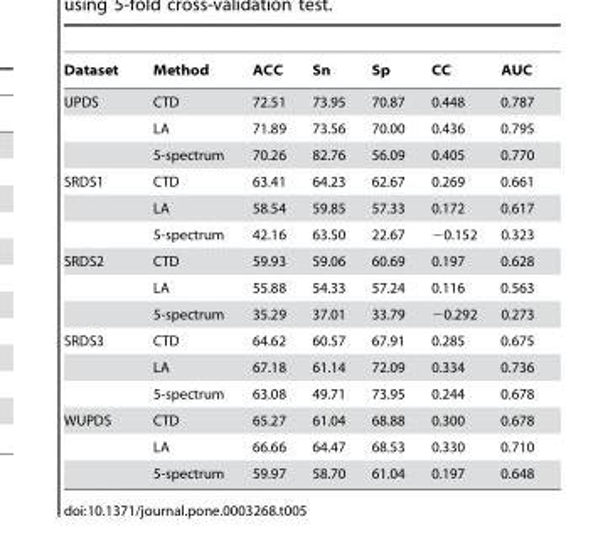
<table><thead><tr><td>Dataset</td><td>Method</td><td>ACC</td><td>Sn</td><td>Sp</td><td>CC</td><td>AUC</td></tr></thead><tbody><tr><td rowspan="3">UPDS</td><td>CTD</td><td>72.51</td><td>73.95</td><td>70.87</td><td>0.448</td><td>0.787</td></tr><tr><td>LA</td><td>71.89</td><td>73.56</td><td>70.00</td><td>0.436</td><td>0.795</td></tr><tr><td>5-spectrum</td><td>70.26</td><td>82.76</td><td>56.09</td><td>0.405</td><td>0.770</td></tr><tr><td rowspan="3">SRDS1</td><td>CTD</td><td>63.41</td><td>64.23</td><td>62.67</td><td>0.269</td><td>0.661</td></tr><tr><td>LA</td><td>58.54</td><td>59.85</td><td>57.33</td><td>0.172</td><td>0.617</td></tr><tr><td>5-spectrum</td><td>42.16</td><td>63.50</td><td>22.67</td><td>−0.152</td><td>0.323</td></tr><tr><td rowspan="3">SRDS2</td><td>CTD</td><td>59.93</td><td>59.06</td><td>60.69</td><td>0.197</td><td>0.628</td></tr><tr><td>LA</td><td>55.88</td><td>54.33</td><td>57.24</td><td>0.116</td><td>0.563</td></tr><tr><td>5-spectrum</td><td>35.29</td><td>37.01</td><td>33.79</td><td>−0.292</td><td>0.273</td></tr><tr><td rowspan="3">SRDS3</td><td>CTD</td><td>64.62</td><td>60.57</td><td>67.91</td><td>0.285</td><td>0.675</td></tr><tr><td>LA</td><td>67.18</td><td>61.14</td><td>72.09</td><td>0.334</td><td>0.736</td></tr><tr><td>5-spectrum</td><td>63.08</td><td>49.71</td><td>73.95</td><td>0.244</td><td>0.678</td></tr><tr><td rowspan="3">WUPDS</td><td>CTD</td><td>65.27</td><td>61.04</td><td>68.88</td><td>0.300</td><td>0.678</td></tr><tr><td>LA</td><td>66.66</td><td>64.47</td><td>68.53</td><td>0.330</td><td>0.710</td></tr><tr><td>5-spectrum</td><td>59.97</td><td>58.70</td><td>61.04</td><td>0.197</td><td>0.648</td></tr></tbody></table>